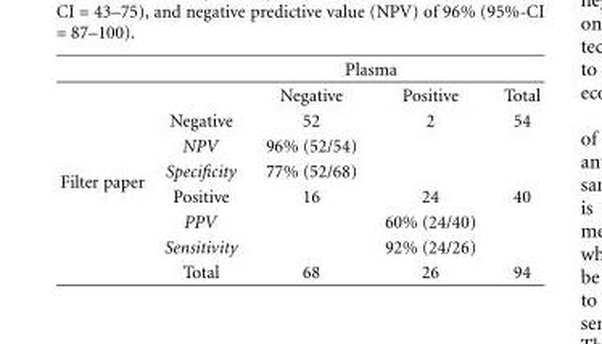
<table><thead><tr><td rowspan="2"></td><td rowspan="2"></td><td colspan="2">Plasma</td><td rowspan="2">Total</td></tr><tr><td>Negative</td><td>Positive</td></tr></thead><tbody><tr><td rowspan="7">Filter paper</td><td>Negative</td><td>52</td><td>2</td><td>54</td></tr><tr><td>NPV</td><td>96% (52/54)</td><td></td><td></td></tr><tr><td>Specificity</td><td>77% (52/68)</td><td></td><td></td></tr><tr><td>Positive</td><td>16</td><td>24</td><td>40</td></tr><tr><td>PPV</td><td></td><td>60% (24/40)</td><td></td></tr><tr><td>Sensitivity</td><td></td><td>92% (24/26)</td><td></td></tr><tr><td>Total</td><td>68</td><td>26</td><td>94</td></tr></tbody></table>